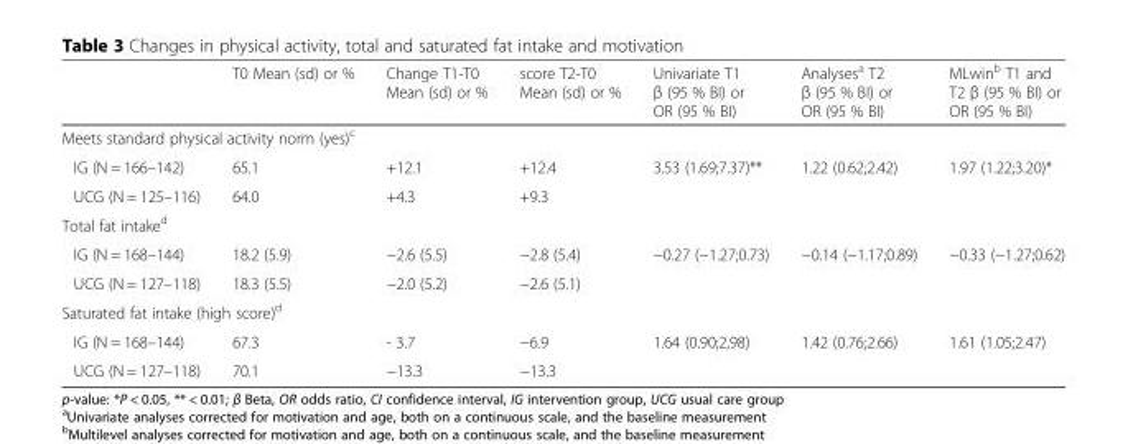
<table><thead><tr><td></td><td>T0 Mean (sd) or %</td><td>Change T1-T0 Mean (sd) or %</td><td>score T2-T0 Mean (sd) or %</td><td>Univariate T1 β (95 % BI) or OR (95 % BI)</td><td>Analyses<sup>a</sup> T2 β (95 % BI) or OR (95 % BI)</td><td>MLwin<sup>b</sup> T1 and T2 β (95 % BI) or OR (95 % BI)</td></tr></thead><tbody><tr><td colspan="7">Meets standard physical activity norm (yes)<sup>c</sup></td></tr><tr><td>IG (N = 166–142)</td><td>65.1</td><td>+12.1</td><td>+12.4</td><td>3.53 (1.69;7.37)**</td><td>1.22 (0.62;2.42)</td><td>1.97 (1.22;3.20)*</td></tr><tr><td>UCG (N = 125–116)</td><td>64.0</td><td>+4.3</td><td>+9.3</td><td></td><td></td><td></td></tr><tr><td colspan="7">Total fat intake<sup>d</sup></td></tr><tr><td>IG (N = 168–144)</td><td>18.2 (5.9)</td><td>−2.6 (5.5)</td><td>−2.8 (5.4)</td><td>−0.27 (−1.27;0.73)</td><td>−0.14 (−1.17;0.89)</td><td>−0.33 (−1.27;0.62)</td></tr><tr><td>UCG (N = 127–118)</td><td>18.3 (5.5)</td><td>−2.0 (5.2)</td><td>−2.6 (5.1)</td><td></td><td></td><td></td></tr><tr><td colspan="7">Saturated fat intake (high score)<sup>d</sup></td></tr><tr><td>IG (N = 168–144)</td><td>67.3</td><td>- 3.7</td><td>−6.9</td><td>1.64 (0.90;2,98)</td><td>1.42 (0.76;2.66)</td><td>1.61 (1.05;2.47)</td></tr><tr><td>UCG (N = 127–118)</td><td>70.1</td><td>−13.3</td><td>−13.3</td><td></td><td></td><td></td></tr></tbody></table>